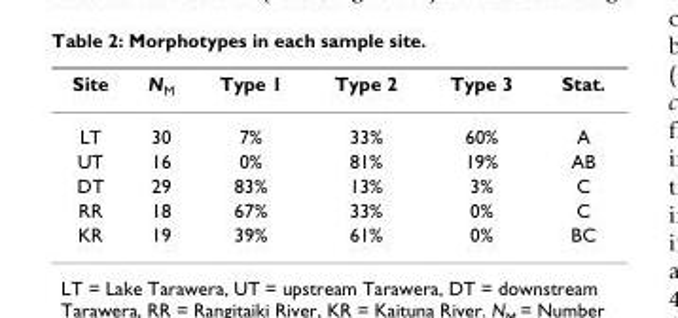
<table><thead><tr><td>Site</td><td>N<sub>M</sub></td><td>Type 1</td><td>Type 2</td><td>Type 3</td><td>Stat.</td></tr></thead><tbody><tr><td>LT</td><td>30</td><td>7%</td><td>33%</td><td>60%</td><td>A</td></tr><tr><td>UT</td><td>16</td><td>0%</td><td>81%</td><td>19%</td><td>AB</td></tr><tr><td>DT</td><td>29</td><td>83%</td><td>13%</td><td>3%</td><td>C</td></tr><tr><td>RR</td><td>18</td><td>67%</td><td>33%</td><td>0%</td><td>C</td></tr><tr><td>KR</td><td>19</td><td>39%</td><td>61%</td><td>0%</td><td>BC</td></tr></tbody></table>